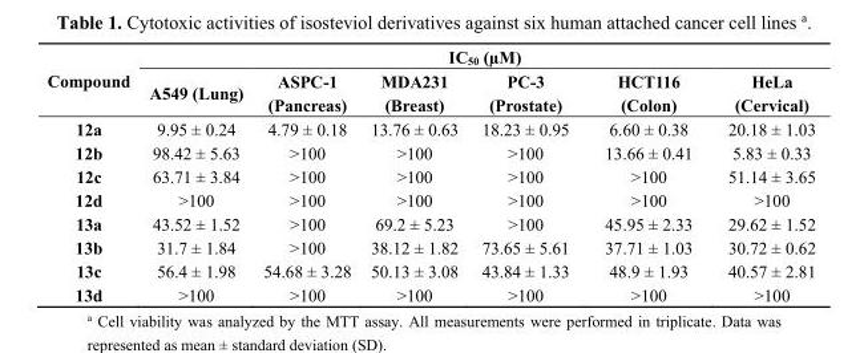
<table><thead><tr><td rowspan="2">Compound</td><td colspan="6">IC<sub>50</sub> (µM)</td></tr><tr><td>A549 (Lung)</td><td>ASPC-1 (Pancreas)</td><td>MDA231 (Breast)</td><td>PC-3 (Prostate)</td><td>HCT116 (Colon)</td><td>HeLa (Cervical)</td></tr></thead><tbody><tr><td>12a</td><td>9.95 ± 0.24</td><td>4.79 ± 0.18</td><td>13.76 ± 0.63</td><td>18.23 ± 0.95</td><td>6.60 ± 0.38</td><td>20.18 ± 1.03</td></tr><tr><td>12b</td><td>98.42 ± 5.63</td><td>&gt;100</td><td>&gt;100</td><td>&gt;100</td><td>13.66 ± 0.41</td><td>5.83 ± 0.33</td></tr><tr><td>12c</td><td>63.71 ± 3.84</td><td>&gt;100</td><td>&gt;100</td><td>&gt;100</td><td>&gt;100</td><td>51.14 ± 3.65</td></tr><tr><td>12d</td><td>&gt;100</td><td>&gt;100</td><td>&gt;100</td><td>&gt;100</td><td>&gt;100</td><td>&gt;100</td></tr><tr><td>13a</td><td>43.52 ± 1.52</td><td>&gt;100</td><td>69.2 ± 5.23</td><td>&gt;100</td><td>45.95 ± 2.33</td><td>29.62 ± 1.52</td></tr><tr><td>13b</td><td>31.7 ± 1.84</td><td>&gt;100</td><td>38.12 ± 1.82</td><td>73.65 ± 5.61</td><td>37.71 ± 1.03</td><td>30.72 ± 0.62</td></tr><tr><td>13c</td><td>56.4 ± 1.98</td><td>54.68 ± 3.28</td><td>50.13 ± 3.08</td><td>43.84 ± 1.33</td><td>48.9 ± 1.93</td><td>40.57 ± 2.81</td></tr><tr><td>13d</td><td>&gt;100</td><td>&gt;100</td><td>&gt;100</td><td>&gt;100</td><td>&gt;100</td><td>&gt;100</td></tr></tbody></table>